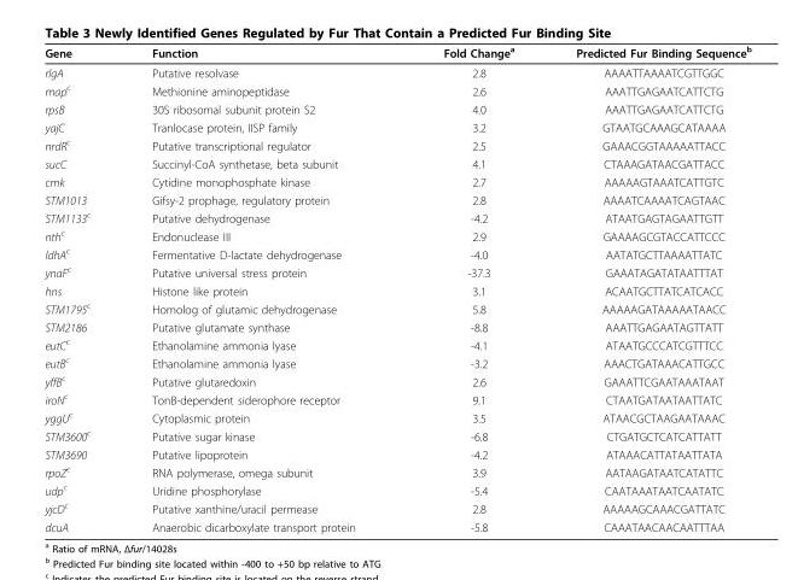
<table><thead><tr><td>Gene</td><td>Function</td><td>Fold Change<sup>a</sup></td><td>Predicted Fur Binding Sequence<sup>b</sup></td></tr></thead><tbody><tr><td>rlgA</td><td>Putative resolvase</td><td>2.8</td><td>AAAATTAAAATCGTTGGC</td></tr><tr><td>map<sup>c</sup></td><td>Methionine aminopeptidase</td><td>2.6</td><td>AAATTGAGAATCATTCTG</td></tr><tr><td>rpsB</td><td>30S ribosomal subunit protein S2</td><td>4.0</td><td>AAATTGAGAATCATTCTG</td></tr><tr><td>yajC</td><td>Tranlocase protein, IISP family</td><td>3.2</td><td>GTAATGCAAAGCATAAAA</td></tr><tr><td>nrdR<sup>c</sup></td><td>Putative transcriptional regulator</td><td>2.5</td><td>GAAACGGTAAAAATTACC</td></tr><tr><td>sucC</td><td>Succinyl-CoA synthetase, beta subunit</td><td>4.1</td><td>CTAAAGATAACGATTACC</td></tr><tr><td>cmk</td><td>Cytidine monophosphate kinase</td><td>2.7</td><td>AAAAAGTAAATCATTGTC</td></tr><tr><td>STM1013</td><td>Gifsy-2 prophage, regulatory protein</td><td>2.8</td><td>AAAATCAAAATCAGTAAC</td></tr><tr><td>STM1133<sup>c</sup></td><td>Putative dehydrogenase</td><td>-4.2</td><td>ATAATGAGTAGAATTGTT</td></tr><tr><td>nth<sup>c</sup></td><td>Endonuclease III</td><td>2.9</td><td>GAAAAGCGTACCATTCCC</td></tr><tr><td>ldhA<sup>c</sup></td><td>Fermentative D-lactate dehydrogenase</td><td>-4.0</td><td>AATATGCTTAAAATTATC</td></tr><tr><td>ynaF<sup>c</sup></td><td>Putative universal stress protein</td><td>-37.3</td><td>GAAATAGATATAATTTAT</td></tr><tr><td>hns</td><td>Histone like protein</td><td>3.1</td><td>ACAATGCTTATCATCACC</td></tr><tr><td>STM1795<sup>c</sup></td><td>Homolog of glutamic dehydrogenase</td><td>5.8</td><td>AAAAAGATAAAAATAACC</td></tr><tr><td>STM2186</td><td>Putative glutamate synthase</td><td>-8.8</td><td>AAATTGAGAATAGTTATT</td></tr><tr><td>eutC<sup>c</sup></td><td>Ethanolamine ammonia lyase</td><td>-4.1</td><td>ATAATGCCCATCGTTTCC</td></tr><tr><td>eutB<sup>c</sup></td><td>Ethanolamine ammonia lyase</td><td>-3.2</td><td>AAACTGATAAACATTGCC</td></tr><tr><td>yffB<sup>c</sup></td><td>Putative glutaredoxin</td><td>2.6</td><td>GAAATTCGAATAAATAAT</td></tr><tr><td>iroN<sup>c</sup></td><td>TonB-dependent siderophore receptor</td><td>9.1</td><td>CTAATGATAATAATTATC</td></tr><tr><td>yggU<sup>c</sup></td><td>Cytoplasmic protein</td><td>3.5</td><td>ATAACGCTAAGAATAAAC</td></tr><tr><td>STM3600<sup>c</sup></td><td>Putative sugar kinase</td><td>-6.8</td><td>CTGATGCTCATCATTATT</td></tr><tr><td>STM3690</td><td>Putative lipoprotein</td><td>-4.2</td><td>ATAAACATTATAATTATA</td></tr><tr><td>rpoZ<sup>c</sup></td><td>RNA polymerase, omega subunit</td><td>3.9</td><td>AATAAGATAATCATATTC</td></tr><tr><td>udp<sup>c</sup></td><td>Uridine phosphorylase</td><td>-5.4</td><td>CAATAAATAATCAATATC</td></tr><tr><td>yjcD<sup>c</sup></td><td>Putative xanthine/uracil permease</td><td>2.8</td><td>AAAAAGCAAACGATTATC</td></tr><tr><td>dcuA</td><td>Anaerobic dicarboxylate transport protein</td><td>-5.8</td><td>CAAATAACAACAATTTAA</td></tr></tbody></table>